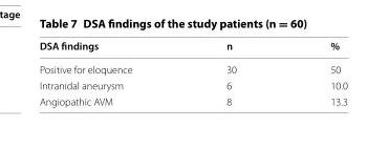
<table><thead><tr><td>DSA findings</td><td>n</td><td>%</td></tr></thead><tbody><tr><td>Positive for eloquence</td><td>30</td><td>50</td></tr><tr><td>Intranidal aneurysm</td><td>6</td><td>10.0</td></tr><tr><td>Angiopathic AVM</td><td>8</td><td>13.3</td></tr></tbody></table>